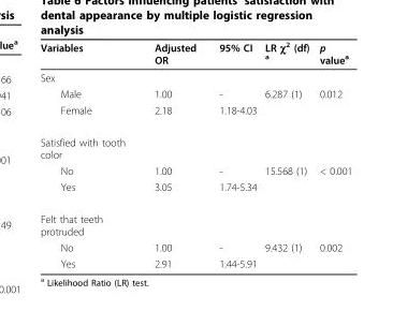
<table><thead><tr><td>Variables</td><td>Adjusted OR</td><td>95% CI</td><td>LR χ<sup>2</sup> (df) <sup>a</sup></td><td>p value<sup>a</sup></td></tr></thead><tbody><tr><td colspan="5">Sex</td></tr><tr><td>Male</td><td>1.00</td><td>-</td><td>6.287 (1)</td><td>0.012</td></tr><tr><td>Female</td><td>2.18</td><td>1.18-4.03</td><td></td><td></td></tr><tr><td colspan="5">Satisfied with tooth color</td></tr><tr><td>No</td><td>1.00</td><td>-</td><td>15.568 (1)</td><td>&lt; 0.001</td></tr><tr><td>Yes</td><td>3.05</td><td>1.74-5.34</td><td></td><td></td></tr><tr><td colspan="5">Felt that teeth protruded</td></tr><tr><td>No</td><td>1.00</td><td>-</td><td>9.432 (1)</td><td>0.002</td></tr><tr><td>Yes</td><td>2.91</td><td>1.44-5.91</td><td></td><td></td></tr></tbody></table>